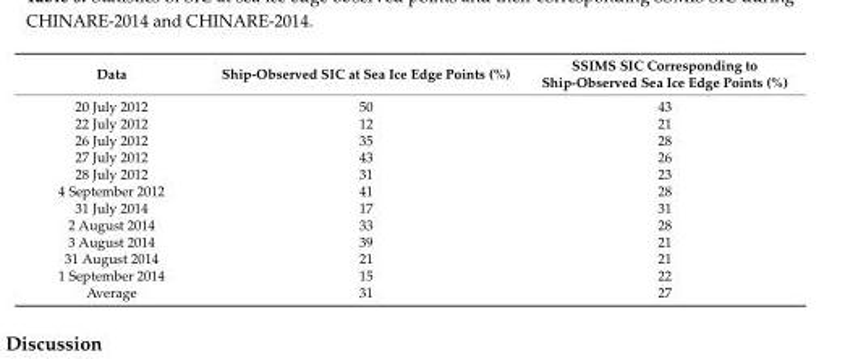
<table><thead><tr><td>Data</td><td>Ship-Observed SIC at Sea Ice Edge Points (%)</td><td>SSIMS SIC Corresponding to Ship-Observed Sea Ice Edge Points (%)</td></tr></thead><tbody><tr><td>20 July 2012</td><td>50</td><td>43</td></tr><tr><td>22 July 2012</td><td>12</td><td>21</td></tr><tr><td>26 July 2012</td><td>35</td><td>28</td></tr><tr><td>27 July 2012</td><td>43</td><td>26</td></tr><tr><td>28 July 2012</td><td>31</td><td>23</td></tr><tr><td>4 September 2012</td><td>41</td><td>28</td></tr><tr><td>31 July 2014</td><td>17</td><td>31</td></tr><tr><td>2 August 2014</td><td>33</td><td>28</td></tr><tr><td>3 August 2014</td><td>39</td><td>21</td></tr><tr><td>31 August 2014</td><td>21</td><td>21</td></tr><tr><td>1 September 2014</td><td>15</td><td>22</td></tr><tr><td>Average</td><td>31</td><td>27</td></tr></tbody></table>